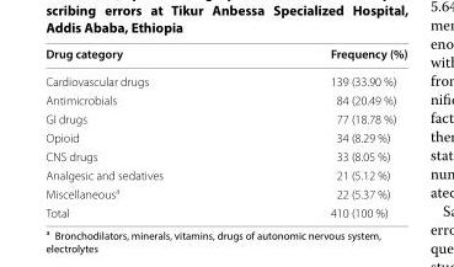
<table><thead><tr><td>Drug category</td><td>Frequency (%)</td></tr></thead><tbody><tr><td>Cardiovascular drugs</td><td>139 (33.90 %)</td></tr><tr><td>Antimicrobials</td><td>84 (20.49 %)</td></tr><tr><td>GI drugs</td><td>77 (18.78 %)</td></tr><tr><td>Opioid</td><td>34 (8.29 %)</td></tr><tr><td>CNS drugs</td><td>33 (8.05 %)</td></tr><tr><td>Analgesic and sedatives</td><td>21 (5.12 %)</td></tr><tr><td>Miscellaneous<sup>a</sup></td><td>22 (5.37 %)</td></tr><tr><td>Total</td><td>410 (100 %)</td></tr></tbody></table>